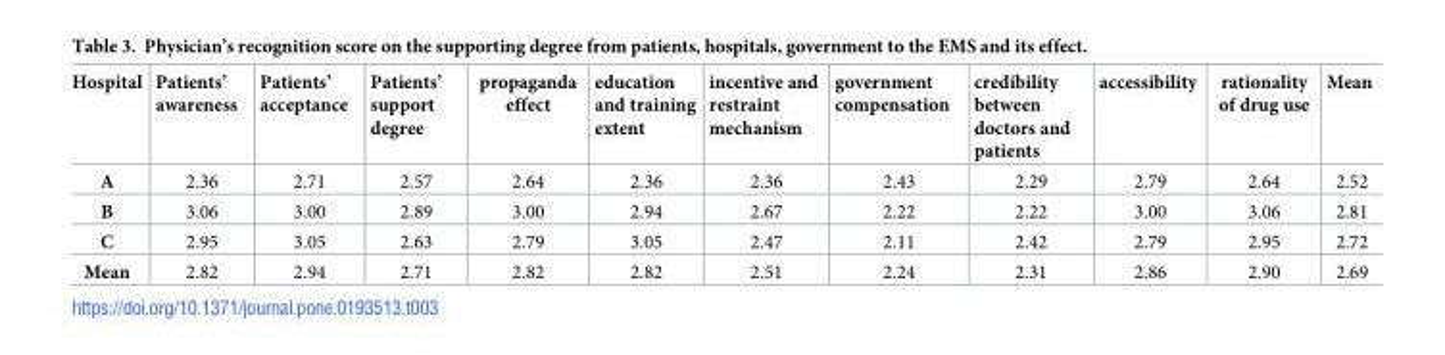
<table><thead><tr><td>Hospital</td><td>Patients’ awareness</td><td>Patients’ acceptance</td><td>Patients’ support degree</td><td>propaganda effect</td><td>education and training extent</td><td>incentive and restraint mechanism</td><td>government compensation</td><td>credibility between doctors and patients</td><td>accessibility</td><td>rationality of drug use</td><td>Mean</td></tr></thead><tbody><tr><td>A</td><td>2.36</td><td>2.71</td><td>2.57</td><td>2.64</td><td>2.36</td><td>2.36</td><td>2.43</td><td>2.29</td><td>2.79</td><td>2.64</td><td>2.52</td></tr><tr><td>B</td><td>3.06</td><td>3.00</td><td>2.89</td><td>3.00</td><td>2.94</td><td>2.67</td><td>2.22</td><td>2.22</td><td>3.00</td><td>3.06</td><td>2.81</td></tr><tr><td>C</td><td>2.95</td><td>3.05</td><td>2.63</td><td>2.79</td><td>3.05</td><td>2.47</td><td>2.11</td><td>2.42</td><td>2.79</td><td>2.95</td><td>2.72</td></tr><tr><td>Mean</td><td>2.82</td><td>2.94</td><td>2.71</td><td>2.82</td><td>2.82</td><td>2.51</td><td>2.24</td><td>2.31</td><td>2.86</td><td>2.90</td><td>2.69</td></tr></tbody></table>